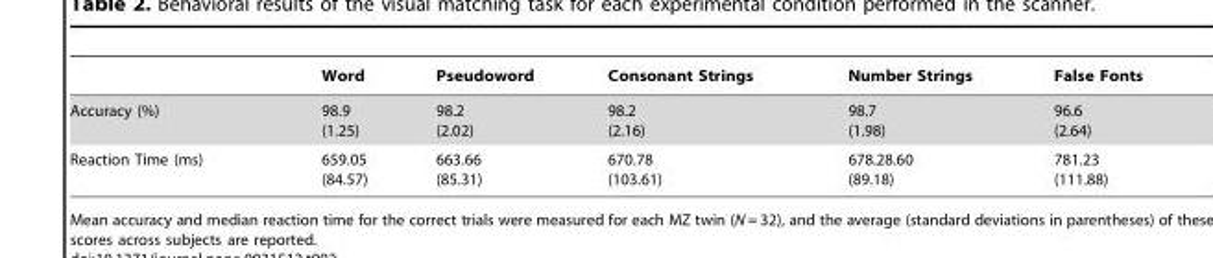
<table><thead><tr><td></td><td>Word</td><td>Pseudoword</td><td>Consonant Strings</td><td>Number Strings</td><td>False Fonts</td></tr></thead><tbody><tr><td>Accuracy (%)</td><td>98.9 (1.25)</td><td>98.2 (2.02)</td><td>98.2 (2.16)</td><td>98.7 (1.98)</td><td>96.6 (2.64)</td></tr><tr><td>Reaction Time (ms)</td><td>659.05 (84.57)</td><td>663.66 (85.31)</td><td>670.78 (103.61)</td><td>678.28.60 (89.18)</td><td>781.23 (111.88)</td></tr></tbody></table>